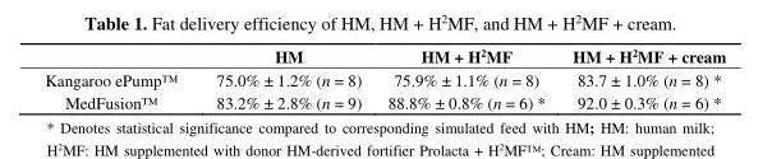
<table><thead><tr><td></td><td>HM</td><td>HM + H<sup>2</sup>MF</td><td>HM + H<sup>2</sup>MF + cream</td></tr></thead><tbody><tr><td>Kangaroo ePump™</td><td>75.0% ± 1.2% (n = 8)</td><td>75.9% ± 1.1% (n = 8)</td><td>83.7 ± 1.0% (n = 8) *</td></tr><tr><td>MedFusion™</td><td>83.2% ± 2.8% (n = 9)</td><td>88.8% ± 0.8% (n = 6) *</td><td>92.0 ± 0.3% (n = 6) *</td></tr></tbody></table>